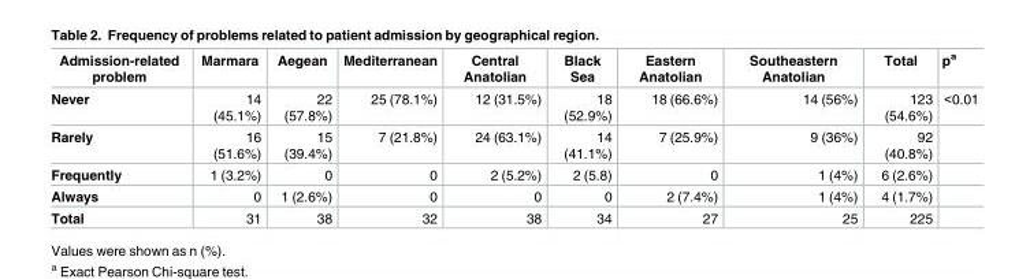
<table><thead><tr><td>Admission-related problem</td><td>Marmara</td><td>Aegean</td><td>Mediterranean</td><td>Central Anatolian</td><td>Black Sea</td><td>Eastern Anatolian</td><td>Southeastern Anatolian</td><td>Total</td><td>p<sup>a</sup></td></tr></thead><tbody><tr><td>Never</td><td>14 (45.1%)</td><td>22 (57.8%)</td><td>25 (78.1%)</td><td>12 (31.5%)</td><td>18 (52.9%)</td><td>18 (66.6%)</td><td>14 (56%)</td><td>123 (54.6%)</td><td>&lt;0.01</td></tr><tr><td>Rarely</td><td>16 (51.6%)</td><td>15 (39.4%)</td><td>7 (21.8%)</td><td>24 (63.1%)</td><td>14 (41.1%)</td><td>7 (25.9%)</td><td>9 (36%)</td><td>92 (40.8%)</td><td></td></tr><tr><td>Frequently</td><td>1 (3.2%)</td><td>0</td><td>0</td><td>2 (5.2%)</td><td>2 (5.8)</td><td>0</td><td>1 (4%)</td><td>6 (2.6%)</td><td></td></tr><tr><td>Always</td><td>0</td><td>1 (2.6%)</td><td>0</td><td>0</td><td>0</td><td>2 (7.4%)</td><td>1 (4%)</td><td>4 (1.7%)</td><td></td></tr><tr><td>Total</td><td>31</td><td>38</td><td>32</td><td>38</td><td>34</td><td>27</td><td>25</td><td>225</td><td></td></tr></tbody></table>